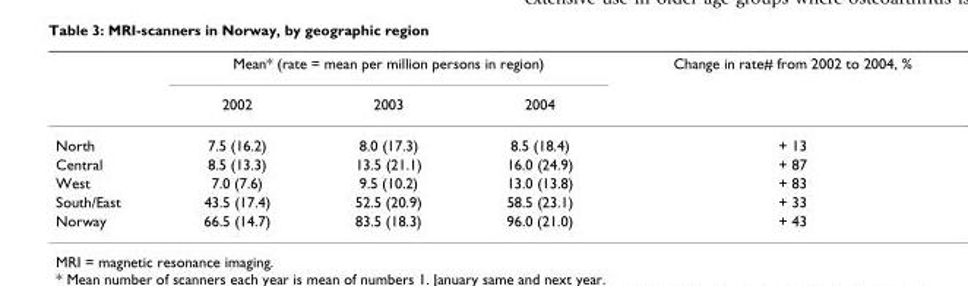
<table><thead><tr><td rowspan="2"></td><td colspan="3">Mean* (rate = mean per million persons in region)</td><td rowspan="2">Change in rate# from 2002 to 2004, %</td></tr><tr><td>2002</td><td>2003</td><td>2004</td></tr></thead><tbody><tr><td>North</td><td>7.5 (16.2)</td><td>8.0 (17.3)</td><td>8.5 (18.4)</td><td>+ 13</td></tr><tr><td>Central</td><td>8.5 (13.3)</td><td>13.5 (21.1)</td><td>16.0 (24.9)</td><td>+ 87</td></tr><tr><td>West</td><td>7.0 (7.6)</td><td>9.5 (10.2)</td><td>13.0 (13.8)</td><td>+ 83</td></tr><tr><td>South/East</td><td>43.5 (17.4)</td><td>52.5 (20.9)</td><td>58.5 (23.1)</td><td>+ 33</td></tr><tr><td>Norway</td><td>66.5 (14.7)</td><td>83.5 (18.3)</td><td>96.0 (21.0)</td><td>+ 43</td></tr></tbody></table>